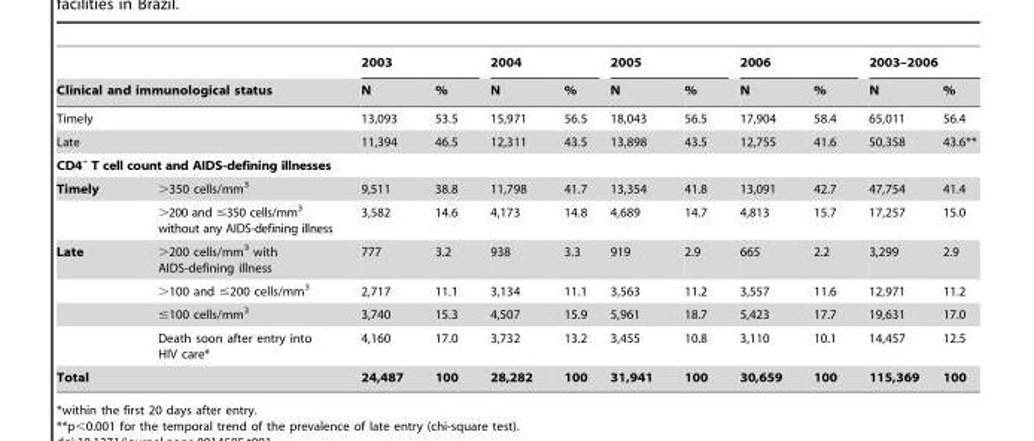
<table><thead><tr><td></td><td></td><td colspan="2">2003</td><td colspan="2">2004</td><td colspan="2">2005</td><td colspan="2">2006</td><td colspan="2">2003–2006</td></tr><tr><td colspan="2">Clinical and immunological status</td><td>N</td><td>%</td><td>N</td><td>%</td><td>N</td><td>%</td><td>N</td><td>%</td><td>N</td><td>%</td></tr></thead><tbody><tr><td colspan="2">Timely</td><td>13,093</td><td>53.5</td><td>15,971</td><td>56.5</td><td>18,043</td><td>56.5</td><td>17,904</td><td>58.4</td><td>65,011</td><td>56.4</td></tr><tr><td colspan="2">Late</td><td>11,394</td><td>46.5</td><td>12,311</td><td>43.5</td><td>13,898</td><td>43.5</td><td>12,755</td><td>41.6</td><td>50,358</td><td>43.6**</td></tr><tr><td colspan="12">CD4<sup>+</sup> T cell count and AIDS-defining illnesses</td></tr><tr><td rowspan="2">Timely</td><td>&gt;350 cells/mm<sup>3</sup></td><td>9,511</td><td>38.8</td><td>11,798</td><td>41.7</td><td>13,354</td><td>41.8</td><td>13,091</td><td>42.7</td><td>47,754</td><td>41.4</td></tr><tr><td>&gt;200 and ≤350 cells/mm<sup>3</sup> without any AIDS-defining illness</td><td>3,582</td><td>14.6</td><td>4,173</td><td>14.8</td><td>4,689</td><td>14.7</td><td>4,813</td><td>15.7</td><td>17,257</td><td>15.0</td></tr><tr><td rowspan="4">Late</td><td>&gt;200 cells/mm<sup>3</sup> with AIDS-defining illness</td><td>777</td><td>3.2</td><td>938</td><td>3.3</td><td>919</td><td>2.9</td><td>665</td><td>2.2</td><td>3,299</td><td>2.9</td></tr><tr><td>&gt;100 and ≤200 cells/mm<sup>3</sup></td><td>2,717</td><td>11.1</td><td>3,134</td><td>11.1</td><td>3,563</td><td>11.2</td><td>3,557</td><td>11.6</td><td>12,971</td><td>11.2</td></tr><tr><td>≤100 cells/mm<sup>3</sup></td><td>3,740</td><td>15.3</td><td>4,507</td><td>15.9</td><td>5,961</td><td>18.7</td><td>5,423</td><td>17.7</td><td>19,631</td><td>17.0</td></tr><tr><td>Death soon after entry into HIV care*</td><td>4,160</td><td>17.0</td><td>3,732</td><td>13.2</td><td>3,455</td><td>10.8</td><td>3,110</td><td>10.1</td><td>14,457</td><td>12.5</td></tr><tr><td colspan="2">Total</td><td>24,487</td><td>100</td><td>28,282</td><td>100</td><td>31,941</td><td>100</td><td>30,659</td><td>100</td><td>115,369</td><td>100</td></tr></tbody></table>